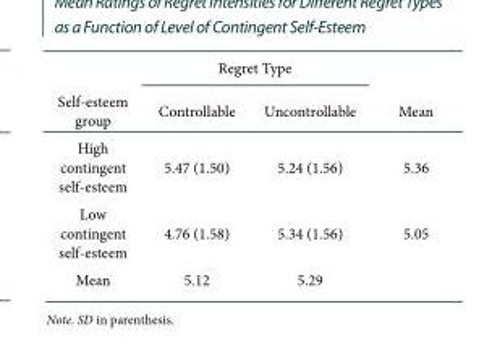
<table><thead><tr><td colspan="4">Regret Type</td></tr><tr><td>Self-esteem group</td><td>Controllable</td><td>Uncontrollable</td><td>Mean</td></tr></thead><tbody><tr><td>High contingent self-esteem</td><td>5.47 (1.50)</td><td>5.24 (1.56)</td><td>5.36</td></tr><tr><td>Low contingent self-esteem</td><td>4.76 (1.58)</td><td>5.34 (1.56)</td><td>5.05</td></tr><tr><td>Mean</td><td>5.12</td><td>5.29</td><td></td></tr></tbody></table>